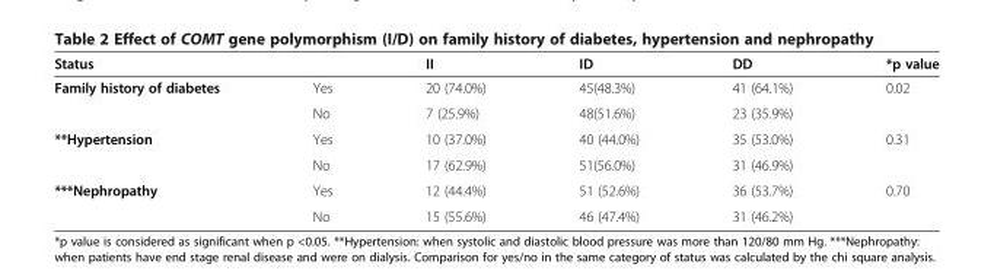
<table><thead><tr><td>Status</td><td></td><td>II</td><td>ID</td><td>DD</td><td>*p value</td></tr></thead><tbody><tr><td rowspan="2">Family history of diabetes</td><td>Yes</td><td>20 (74.0%)</td><td>45(48.3%)</td><td>41 (64.1%)</td><td rowspan="2">0.02</td></tr><tr><td>No</td><td>7 (25.9%)</td><td>48(51.6%)</td><td>23 (35.9%)</td></tr><tr><td rowspan="2">**Hypertension</td><td>Yes</td><td>10 (37.0%)</td><td>40 (44.0%)</td><td>35 (53.0%)</td><td rowspan="2">0.31</td></tr><tr><td>No</td><td>17 (62.9%)</td><td>51(56.0%)</td><td>31 (46.9%)</td></tr><tr><td rowspan="2">***Nephropathy</td><td>Yes</td><td>12 (44.4%)</td><td>51 (52.6%)</td><td>36 (53.7%)</td><td rowspan="2">0.70</td></tr><tr><td>No</td><td>15 (55.6%)</td><td>46 (47.4%)</td><td>31 (46.2%)</td></tr></tbody></table>